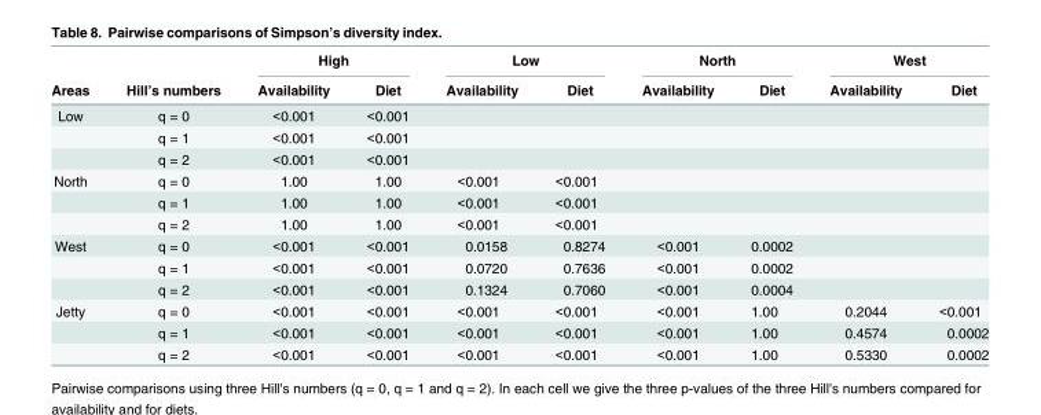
<table><thead><tr><td rowspan="2">Areas</td><td rowspan="2">Hill’s numbers</td><td colspan="2">High</td><td colspan="2">Low</td><td colspan="2">North</td><td colspan="2">West</td></tr><tr><td>Availability</td><td>Diet</td><td>Availability</td><td>Diet</td><td>Availability</td><td>Diet</td><td>Availability</td><td>Diet</td></tr></thead><tbody><tr><td rowspan="3">Low</td><td>q = 0</td><td>&lt;0.001</td><td>&lt;0.001</td><td></td><td></td><td></td><td></td><td></td><td></td></tr><tr><td>q = 1</td><td>&lt;0.001</td><td>&lt;0.001</td><td></td><td></td><td></td><td></td><td></td><td></td></tr><tr><td>q = 2</td><td>&lt;0.001</td><td>&lt;0.001</td><td></td><td></td><td></td><td></td><td></td><td></td></tr><tr><td rowspan="3">North</td><td>q = 0</td><td>1.00</td><td>1.00</td><td>&lt;0.001</td><td>&lt;0.001</td><td></td><td></td><td></td><td></td></tr><tr><td>q = 1</td><td>1.00</td><td>1.00</td><td>&lt;0.001</td><td>&lt;0.001</td><td></td><td></td><td></td><td></td></tr><tr><td>q = 2</td><td>1.00</td><td>1.00</td><td>&lt;0.001</td><td>&lt;0.001</td><td></td><td></td><td></td><td></td></tr><tr><td rowspan="3">West</td><td>q = 0</td><td>&lt;0.001</td><td>&lt;0.001</td><td>0.0158</td><td>0.8274</td><td>&lt;0.001</td><td>0.0002</td><td></td><td></td></tr><tr><td>q = 1</td><td>&lt;0.001</td><td>&lt;0.001</td><td>0.0720</td><td>0.7636</td><td>&lt;0.001</td><td>0.0002</td><td></td><td></td></tr><tr><td>q = 2</td><td>&lt;0.001</td><td>&lt;0.001</td><td>0.1324</td><td>0.7060</td><td>&lt;0.001</td><td>0.0004</td><td></td><td></td></tr><tr><td rowspan="3">Jetty</td><td>q = 0</td><td>&lt;0.001</td><td>&lt;0.001</td><td>&lt;0.001</td><td>&lt;0.001</td><td>&lt;0.001</td><td>1.00</td><td>0.2044</td><td>&lt;0.001</td></tr><tr><td>q = 1</td><td>&lt;0.001</td><td>&lt;0.001</td><td>&lt;0.001</td><td>&lt;0.001</td><td>&lt;0.001</td><td>1.00</td><td>0.4574</td><td>0.0002</td></tr><tr><td>q = 2</td><td>&lt;0.001</td><td>&lt;0.001</td><td>&lt;0.001</td><td>&lt;0.001</td><td>&lt;0.001</td><td>1.00</td><td>0.5330</td><td>0.0002</td></tr></tbody></table>